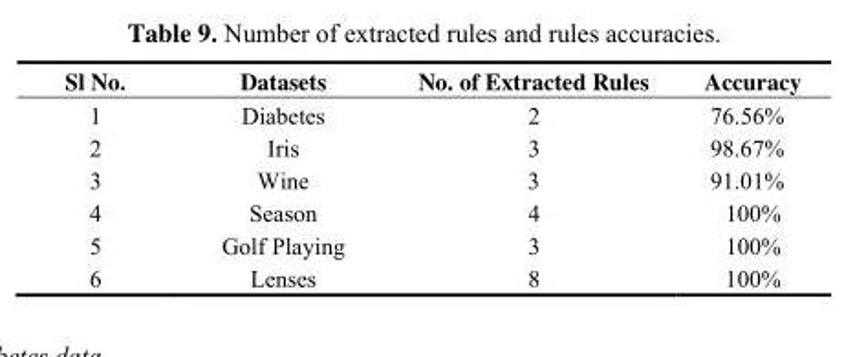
<table><thead><tr><td>Sl No.</td><td>Datasets</td><td>No. of Extracted Rules</td><td>Accuracy</td></tr></thead><tbody><tr><td>1</td><td>Diabetes</td><td>2</td><td>76.56%</td></tr><tr><td>2</td><td>Iris</td><td>3</td><td>98.67%</td></tr><tr><td>3</td><td>Wine</td><td>3</td><td>91.01%</td></tr><tr><td>4</td><td>Season</td><td>4</td><td>100%</td></tr><tr><td>5</td><td>Golf Playing</td><td>3</td><td>100%</td></tr><tr><td>6</td><td>Lenses</td><td>8</td><td>100%</td></tr></tbody></table>